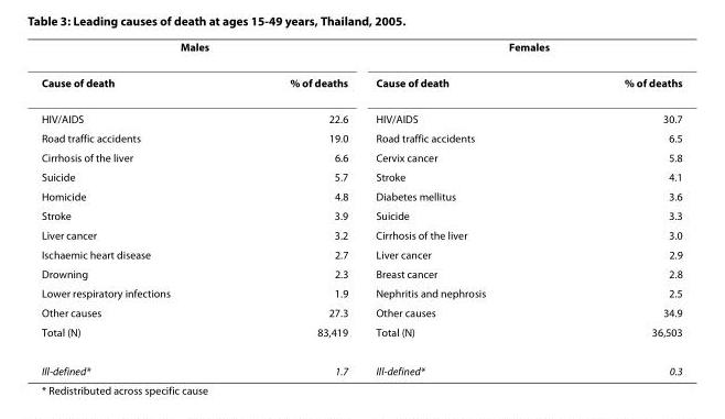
<table><tbody><tr><td colspan="2">Males</td><td colspan="2">Females</td></tr><tr><td>Cause of death</td><td>% of deaths</td><td>Cause of death</td><td>% of deaths</td></tr><tr><td>HIV/AIDS</td><td>22.6</td><td>HIV/AIDS</td><td>30.7</td></tr><tr><td>Road traffic accidents</td><td>19.0</td><td>Road traffic accidents</td><td>6.5</td></tr><tr><td>Cirrhosis of the liver</td><td>6.6</td><td>Cervix cancer</td><td>5.8</td></tr><tr><td>Suicide</td><td>5.7</td><td>Stroke</td><td>4.1</td></tr><tr><td>Homicide</td><td>4.8</td><td>Diabetes mellitus</td><td>3.6</td></tr><tr><td>Stroke</td><td>3.9</td><td>Suicide</td><td>3.3</td></tr><tr><td>Liver cancer</td><td>3.2</td><td>Cirrhosis of the liver</td><td>3.0</td></tr><tr><td>Ischaemic heart disease</td><td>2.7</td><td>Liver cancer</td><td>2.9</td></tr><tr><td>Drowning</td><td>2.3</td><td>Breast cancer</td><td>2.8</td></tr><tr><td>Lower respiratory infections</td><td>1.9</td><td>Nephritis and nephrosis</td><td>2.5</td></tr><tr><td>Other causes</td><td>27.3</td><td>Other causes</td><td>34.9</td></tr><tr><td>Total (N)</td><td>83,419</td><td>Total (N)</td><td>36,503</td></tr><tr><td>Ill-defined*</td><td>1.7</td><td>Ill-defined*</td><td>0.3</td></tr></tbody></table>